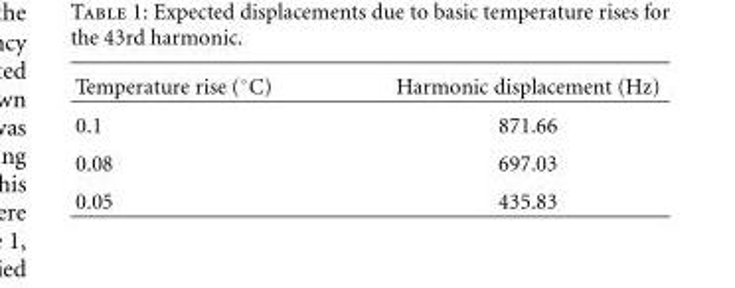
<table><thead><tr><td>Temperature rise (◦C)</td><td>Harmonic displacement (Hz)</td></tr></thead><tbody><tr><td>0.1</td><td>871.66</td></tr><tr><td>0.08</td><td>697.03</td></tr><tr><td>0.05</td><td>435.83</td></tr></tbody></table>